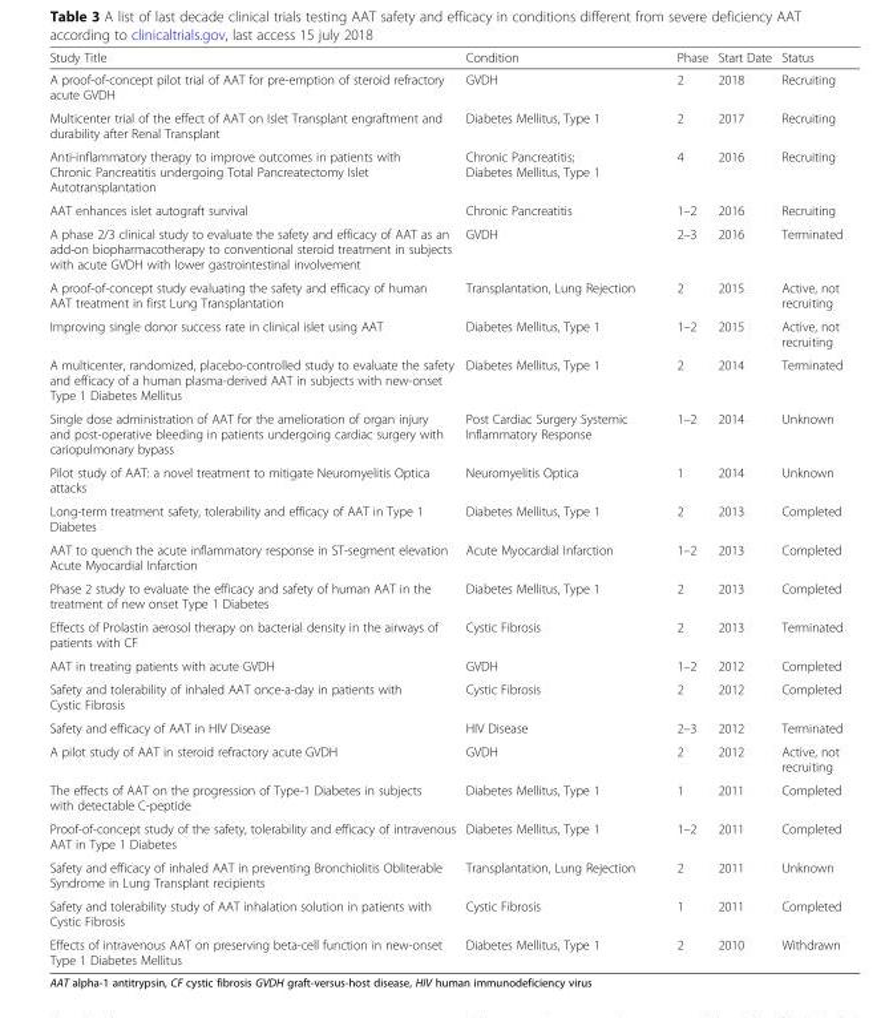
<table><thead><tr><td>Study Title</td><td>Condition</td><td>Phase</td><td>Start Date</td><td>Status</td></tr></thead><tbody><tr><td>A proof-of-concept pilot trial of AAT for pre-emption of steroid refractory acute GVDH</td><td>GVDH</td><td>2</td><td>2018</td><td>Recruiting</td></tr><tr><td>Multicenter trial of the effect of AAT on Islet Transplant engraftment and durability after Renal Transplant</td><td>Diabetes Mellitus, Type 1</td><td>2</td><td>2017</td><td>Recruiting</td></tr><tr><td>Anti-inflammatory therapy to improve outcomes in patients with Chronic Pancreatitis undergoing Total Pancreatectomy Islet Autotransplantation</td><td>Chronic Pancreatitis; Diabetes Mellitus, Type 1</td><td>4</td><td>2016</td><td>Recruiting</td></tr><tr><td>AAT enhances islet autograft survival</td><td>Chronic Pancreatitis</td><td>1–2</td><td>2016</td><td>Recruiting</td></tr><tr><td>A phase 2/3 clinical study to evaluate the safety and efficacy of AAT as an add-on biopharmacotherapy to conventional steroid treatment in subjects with acute GVDH with lower gastrointestinal involvement</td><td>GVDH</td><td>2–3</td><td>2016</td><td>Terminated</td></tr><tr><td>A proof-of-concept study evaluating the safety and efficacy of human AAT treatment in first Lung Transplantation</td><td>Transplantation, Lung Rejection</td><td>2</td><td>2015</td><td>Active, not recruiting</td></tr><tr><td>Improving single donor success rate in clinical islet using AAT</td><td>Diabetes Mellitus, Type 1</td><td>1–2</td><td>2015</td><td>Active, not recruiting</td></tr><tr><td>A multicenter, randomized, placebo-controlled study to evaluate the safety and efficacy of a human plasma-derived AAT in subjects with new-onset Type 1 Diabetes Mellitus</td><td>Diabetes Mellitus, Type 1</td><td>2</td><td>2014</td><td>Terminated</td></tr><tr><td>Single dose administration of AAT for the amelioration of organ injury and post-operative bleeding in patients undergoing cardiac surgery with cariopulmonary bypass</td><td>Post Cardiac Surgery Systemic Inflammatory Response</td><td>1–2</td><td>2014</td><td>Unknown</td></tr><tr><td>Pilot study of AAT: a novel treatment to mitigate Neuromyelitis Optica attacks</td><td>Neuromyelitis Optica</td><td>1</td><td>2014</td><td>Unknown</td></tr><tr><td>Long-term treatment safety, tolerability and efficacy of AAT in Type 1 Diabetes</td><td>Diabetes Mellitus, Type 1</td><td>2</td><td>2013</td><td>Completed</td></tr><tr><td>AAT to quench the acute inflammatory response in ST-segment elevation Acute Myocardial Infarction</td><td>Acute Myocardial Infarction</td><td>1–2</td><td>2013</td><td>Completed</td></tr><tr><td>Phase 2 study to evaluate the efficacy and safety of human AAT in the treatment of new onset Type 1 Diabetes</td><td>Diabetes Mellitus, Type 1</td><td>2</td><td>2013</td><td>Completed</td></tr><tr><td>Effects of Prolastin aerosol therapy on bacterial density in the airways of patients with CF</td><td>Cystic Fibrosis</td><td>2</td><td>2013</td><td>Terminated</td></tr><tr><td>AAT in treating patients with acute GVDH</td><td>GVDH</td><td>1–2</td><td>2012</td><td>Completed</td></tr><tr><td>Safety and tolerability of inhaled AAT once-a-day in patients with Cystic Fibrosis</td><td>Cystic Fibrosis</td><td>2</td><td>2012</td><td>Completed</td></tr><tr><td>Safety and efficacy of AAT in HIV Disease</td><td>HIV Disease</td><td>2–3</td><td>2012</td><td>Terminated</td></tr><tr><td>A pilot study of AAT in steroid refractory acute GVDH</td><td>GVDH</td><td>2</td><td>2012</td><td>Active, not recruiting</td></tr><tr><td>The effects of AAT on the progression of Type-1 Diabetes in subjects with detectable C-peptide</td><td>Diabetes Mellitus, Type 1</td><td>1</td><td>2011</td><td>Completed</td></tr><tr><td>Proof-of-concept study of the safety, tolerability and efficacy of intravenous AAT in Type 1 Diabetes</td><td>Diabetes Mellitus, Type 1</td><td>1–2</td><td>2011</td><td>Completed</td></tr><tr><td>Safety and efficacy of inhaled AAT in preventing Bronchiolitis Obliterable Syndrome in Lung Transplant recipients</td><td>Transplantation, Lung Rejection</td><td>2</td><td>2011</td><td>Unknown</td></tr><tr><td>Safety and tolerability study of AAT inhalation solution in patients with Cystic Fibrosis</td><td>Cystic Fibrosis</td><td>1</td><td>2011</td><td>Completed</td></tr><tr><td>Effects of intravenous AAT on preserving beta-cell function in new-onset Type 1 Diabetes Mellitus</td><td>Diabetes Mellitus, Type 1</td><td>2</td><td>2010</td><td>Withdrawn</td></tr></tbody></table>